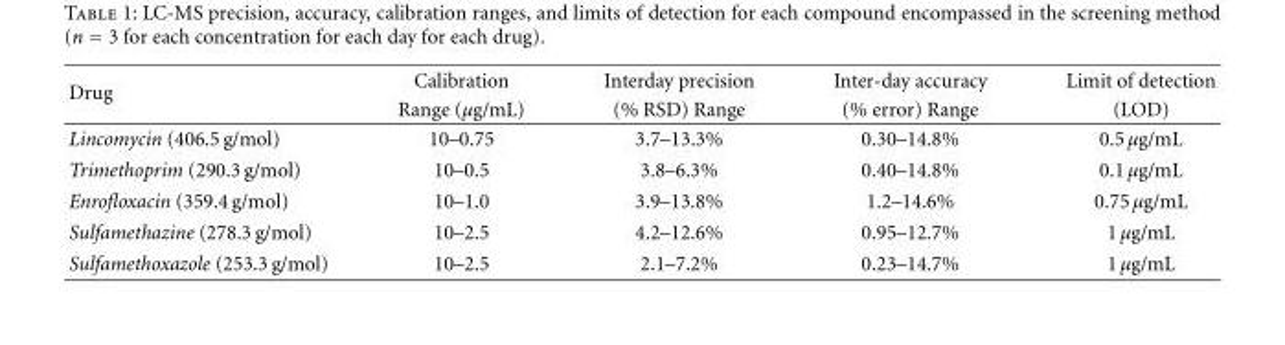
<table><tbody><tr><td rowspan="2">Drug</td><td>Calibration</td><td>Interday precision</td><td>Inter-day accuracy</td><td>Limit of detection</td></tr><tr><td>Range (µg/mL)</td><td>(% RSD) Range</td><td>(% error) Range</td><td>(LOD)</td></tr><tr><td>Lincomycin (406.5 g/mol)</td><td>10–0.75</td><td>3.7–13.3%</td><td>0.30–14.8%</td><td>0.5 µg/mL</td></tr><tr><td>Trimethoprim (290.3 g/mol)</td><td>10–0.5</td><td>3.8–6.3%</td><td>0.40–14.8%</td><td>0.1 µg/mL</td></tr><tr><td>Enrofloxacin (359.4 g/mol)</td><td>10–1.0</td><td>3.9–13.8%</td><td>1.2–14.6%</td><td>0.75 µg/mL</td></tr><tr><td>Sulfamethazine (278.3 g/mol)</td><td>10–2.5</td><td>4.2–12.6%</td><td>0.95–12.7%</td><td>1 µg/mL</td></tr><tr><td>Sulfamethoxazole (253.3 g/mol)</td><td>10–2.5</td><td>2.1–7.2%</td><td>0.23–14.7%</td><td>1 µg/mL</td></tr></tbody></table>